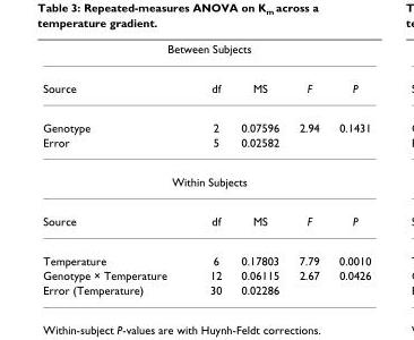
<table><thead><tr><td colspan="5">Between Subjects</td></tr><tr><td>Source</td><td>df</td><td>MS</td><td>F</td><td>P</td></tr></thead><tbody><tr><td>Genotype</td><td>2</td><td>0.07596</td><td>2.94</td><td>0.1431</td></tr><tr><td>Error</td><td>5</td><td>0.02582</td><td></td><td></td></tr><tr><td colspan="5">Within Subjects</td></tr><tr><td>Source</td><td>df</td><td>MS</td><td>F</td><td>P</td></tr><tr><td>Temperature</td><td>6</td><td>0.17803</td><td>7.79</td><td>0.0010</td></tr><tr><td>Genotype × Temperature</td><td>12</td><td>0.06115</td><td>2.67</td><td>0.0426</td></tr><tr><td>Error (Temperature)</td><td>30</td><td>0.02286</td><td></td><td></td></tr></tbody></table>